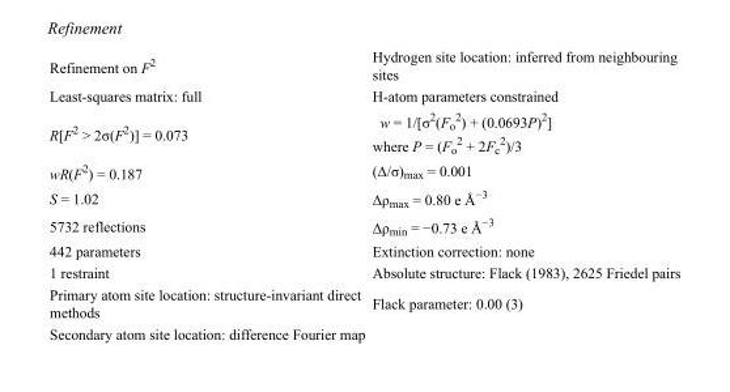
<table><tbody><tr><td>Refinement on F<sup>2</sup></td><td>Hydrogen site location: inferred from neighbouring sites</td></tr><tr><td>Least-squares matrix: full</td><td>H-atom parameters constrained</td></tr><tr><td>R[F<sup>2</sup> &gt; 2σ(F<sup>2</sup>)] = 0.073</td><td>w = 1/[σ<sup>2</sup>(F<sub>o</sub> <sup>2</sup>) + (0.0693P)<sup>2</sup>] where P = (F<sub>o</sub> <sup>2</sup> + 2F<sub>c</sub> <sup>2</sup>)/3</td></tr><tr><td>wR(F<sup>2</sup>) = 0.187</td><td>(Δ/σ)<sub>max</sub> = 0.001</td></tr><tr><td>S = 1.02</td><td>Δρ<sub>max</sub> = 0.80 e Å<sup>−3</sup></td></tr><tr><td>5732 reflections</td><td>Δρ<sub>min</sub> = −0.73 e Å<sup>−3</sup></td></tr><tr><td>442 parameters</td><td>Extinction correction: none</td></tr><tr><td>1 restraint</td><td>Absolute structure: Flack (1983), 2625 Friedel pairs</td></tr><tr><td>Primary atom site location: structure-invariant direct methods</td><td>Flack parameter: 0.00 (3)</td></tr><tr><td>Secondary atom site location: difference Fourier map</td><td></td></tr></tbody></table>